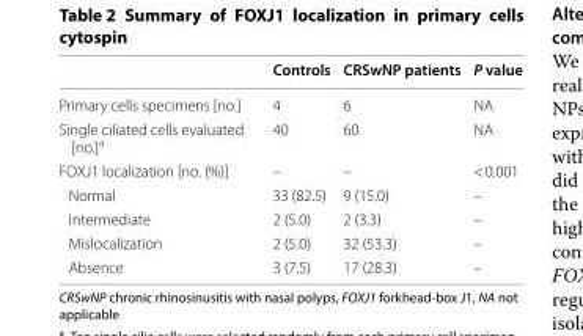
<table><thead><tr><td></td><td>Controls</td><td>CRSwNP patients</td><td>P value</td></tr></thead><tbody><tr><td>Primary cells specimens [no.]</td><td>4</td><td>6</td><td>NA</td></tr><tr><td>Single ciliated cells evaluated [no.]<sup>a</sup></td><td>40</td><td>60</td><td>NA</td></tr><tr><td>FOXJ1 localization [no. (%)]</td><td>–</td><td>–</td><td>&lt; 0.001</td></tr><tr><td>Normal</td><td>33 (82.5)</td><td>9 (15.0)</td><td>–</td></tr><tr><td>Intermediate</td><td>2 (5.0)</td><td>2 (3.3)</td><td>–</td></tr><tr><td>Mislocalization</td><td>2 (5.0)</td><td>32 (53.3)</td><td>–</td></tr><tr><td>Absence</td><td>3 (7.5)</td><td>17 (28.3)</td><td>–</td></tr></tbody></table>